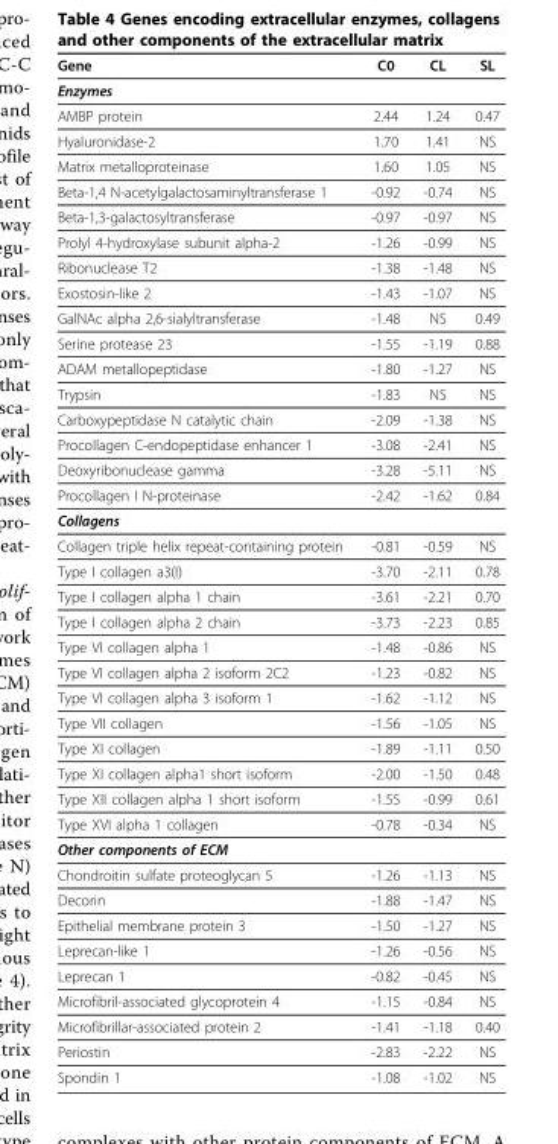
<table><thead><tr><td>Gene</td><td>C0</td><td>CL</td><td>SL</td></tr></thead><tbody><tr><td colspan="4">Enzymes</td></tr><tr><td>AMBP protein</td><td>2.44</td><td>1.24</td><td>0.47</td></tr><tr><td>Hyaluronidase-2</td><td>1.70</td><td>1.41</td><td>NS</td></tr><tr><td>Matrix metalloproteinase</td><td>1.60</td><td>1.05</td><td>NS</td></tr><tr><td>Beta-1,4 N-acetylgalactosaminyltransferase 1</td><td>-0.92</td><td>-0.74</td><td>NS</td></tr><tr><td>Beta-1,3-galactosyltransferase</td><td>-0.97</td><td>-0.97</td><td>NS</td></tr><tr><td>Prolyl 4-hydroxylase subunit alpha-2</td><td>-1.26</td><td>-0.99</td><td>NS</td></tr><tr><td>Ribonuclease T2</td><td>-1.38</td><td>-1.48</td><td>NS</td></tr><tr><td>Exostosin-like 2</td><td>-1.43</td><td>-1.07</td><td>NS</td></tr><tr><td>GalNAc alpha 2,6-sialyltransferase</td><td>-1.48</td><td>NS</td><td>0.49</td></tr><tr><td>Serine protease 23</td><td>-1.55</td><td>-1.19</td><td>0.88</td></tr><tr><td>ADAM metallopeptidase</td><td>-1.80</td><td>-1.27</td><td>NS</td></tr><tr><td>Trypsin</td><td>-1.83</td><td>NS</td><td>NS</td></tr><tr><td>Carboxypeptidase N catalytic chain</td><td>-2.09</td><td>-1.38</td><td>NS</td></tr><tr><td>Procollagen C-endopeptidase enhancer 1</td><td>-3.08</td><td>-2.41</td><td>NS</td></tr><tr><td>Deoxyribonuclease gamma</td><td>-3.28</td><td>-5.11</td><td>NS</td></tr><tr><td>Procollagen I N-proteinase</td><td>-2.42</td><td>-1.62</td><td>0.84</td></tr><tr><td colspan="4">Collagens</td></tr><tr><td>Collagen triple helix repeat-containing protein</td><td>-0.81</td><td>-0.59</td><td>NS</td></tr><tr><td>Type I collagen a3(I)</td><td>-3.70</td><td>-2.11</td><td>0.78</td></tr><tr><td>Type I collagen alpha 1 chain</td><td>-3.61</td><td>-2.21</td><td>0.70</td></tr><tr><td>Type I collagen alpha 2 chain</td><td>-3.73</td><td>-2.23</td><td>0.85</td></tr><tr><td>Type VI collagen alpha 1</td><td>-1.48</td><td>-0.86</td><td>NS</td></tr><tr><td>Type VI collagen alpha 2 isoform 2C2</td><td>-1.23</td><td>-0.82</td><td>NS</td></tr><tr><td>Type VI collagen alpha 3 isoform 1</td><td>-1.62</td><td>-1.12</td><td>NS</td></tr><tr><td>Type VII collagen</td><td>-1.56</td><td>-1.05</td><td>NS</td></tr><tr><td>Type XI collagen</td><td>-1.89</td><td>-1.11</td><td>0.50</td></tr><tr><td>Type XI collagen alpha1 short isoform</td><td>-2.00</td><td>-1.50</td><td>0.48</td></tr><tr><td>Type XII collagen alpha 1 short isoform</td><td>-1.55</td><td>-0.99</td><td>0.61</td></tr><tr><td>Type XVI alpha 1 collagen</td><td>-0.78</td><td>-0.34</td><td>NS</td></tr><tr><td colspan="4">Other components of ECM</td></tr><tr><td>Chondroitin sulfate proteoglycan 5</td><td>-1.26</td><td>-1.13</td><td>NS</td></tr><tr><td>Decorin</td><td>-1.88</td><td>-1.47</td><td>NS</td></tr><tr><td>Epithelial membrane protein 3</td><td>-1.50</td><td>-1.27</td><td>NS</td></tr><tr><td>Leprecan-like 1</td><td>-1.26</td><td>-0.56</td><td>NS</td></tr><tr><td>Leprecan 1</td><td>-0.82</td><td>-0.45</td><td>NS</td></tr><tr><td>Microfibril-associated glycoprotein 4</td><td>-1.15</td><td>-0.84</td><td>NS</td></tr><tr><td>Microfibrillar-associated protein 2</td><td>-1.41</td><td>-1.18</td><td>0.40</td></tr><tr><td>Periostin</td><td>-2.83</td><td>-2.22</td><td>NS</td></tr><tr><td>Spondin 1</td><td>-1.08</td><td>-1.02</td><td>NS</td></tr></tbody></table>